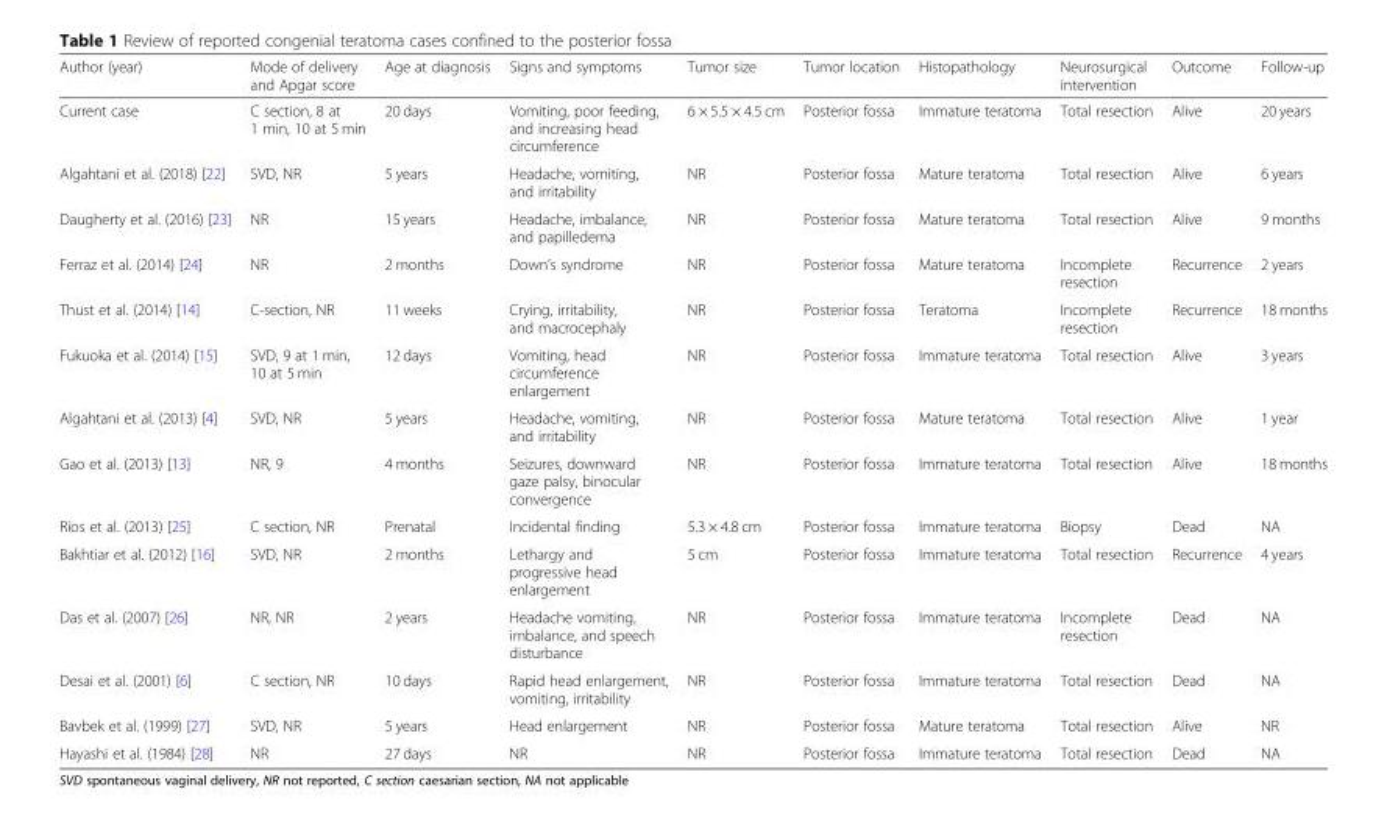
<table><thead><tr><td>Author (year)</td><td>Mode of delivery and Apgar score</td><td>Age at diagnosis</td><td>Signs and symptoms</td><td>Tumor size</td><td>Tumor location</td><td>Histopathology</td><td>Neurosurgical intervention</td><td>Outcome</td><td>Follow-up</td></tr></thead><tbody><tr><td>Current case</td><td>C section, 8 at 1 min, 10 at 5 min</td><td>20 days</td><td>Vomiting, poor feeding, and increasing head circumference</td><td>6 × 5.5 × 4.5 cm</td><td>Posterior fossa</td><td>Immature teratoma</td><td>Total resection</td><td>Alive</td><td>20 years</td></tr><tr><td>Algahtani et al. (2018) [22]</td><td>SVD, NR</td><td>5 years</td><td>Headache, vomiting, and irritability</td><td>NR</td><td>Posterior fossa</td><td>Mature teratoma</td><td>Total resection</td><td>Alive</td><td>6 years</td></tr><tr><td>Daugherty et al. (2016) [23]</td><td>NR</td><td>15 years</td><td>Headache, imbalance, and papilledema</td><td>NR</td><td>Posterior fossa</td><td>Mature teratoma</td><td>Total resection</td><td>Alive</td><td>9 months</td></tr><tr><td>Ferraz et al. (2014) [24]</td><td>NR</td><td>2 months</td><td>Down’s syndrome</td><td>NR</td><td>Posterior fossa</td><td>Mature teratoma</td><td>Incomplete resection</td><td>Recurrence</td><td>2 years</td></tr><tr><td>Thust et al. (2014) [14]</td><td>C-section, NR</td><td>11 weeks</td><td>Crying, irritability, and macrocephaly</td><td>NR</td><td>Posterior fossa</td><td>Teratoma</td><td>Incomplete resection</td><td>Recurrence</td><td>18 months</td></tr><tr><td>Fukuoka et al. (2014) [15]</td><td>SVD, 9 at 1 min, 10 at 5 min</td><td>12 days</td><td>Vomiting, head circumference enlargement</td><td>NR</td><td>Posterior fossa</td><td>Immature teratoma</td><td>Total resection</td><td>Alive</td><td>3 years</td></tr><tr><td>Algahtani et al. (2013) [4]</td><td>SVD, NR</td><td>5 years</td><td>Headache, vomiting, and irritability</td><td>NR</td><td>Posterior fossa</td><td>Mature teratoma</td><td>Total resection</td><td>Alive</td><td>1 year</td></tr><tr><td>Gao et al. (2013) [13]</td><td>NR, 9</td><td>4 months</td><td>Seizures, downward gaze palsy, binocular convergence</td><td>NR</td><td>Posterior fossa</td><td>Immature teratoma</td><td>Total resection</td><td>Alive</td><td>18 months</td></tr><tr><td>Rios et al. (2013) [25]</td><td>C section, NR</td><td>Prenatal</td><td>Incidental finding</td><td>5.3 × 4.8 cm</td><td>Posterior fossa</td><td>Immature teratoma</td><td>Biopsy</td><td>Dead</td><td>NA</td></tr><tr><td>Bakhtiar et al. (2012) [16]</td><td>SVD, NR</td><td>2 months</td><td>Lethargy and progressive head enlargement</td><td>5 cm</td><td>Posterior fossa</td><td>Immature teratoma</td><td>Total resection</td><td>Recurrence</td><td>4 years</td></tr><tr><td>Das et al. (2007) [26]</td><td>NR, NR</td><td>2 years</td><td>Headache vomiting, imbalance, and speech disturbance</td><td>NR</td><td>Posterior fossa</td><td>Immature teratoma</td><td>Incomplete resection</td><td>Dead</td><td>NA</td></tr><tr><td>Desai et al. (2001) [6]</td><td>C section, NR</td><td>10 days</td><td>Rapid head enlargement, vomiting, irritability</td><td>NR</td><td>Posterior fossa</td><td>Immature teratoma</td><td>Total resection</td><td>Dead</td><td>NA</td></tr><tr><td>Bavbek et al. (1999) [27]</td><td>SVD, NR</td><td>5 years</td><td>Head enlargement</td><td>NR</td><td>Posterior fossa</td><td>Mature teratoma</td><td>Total resection</td><td>Alive</td><td>NR</td></tr><tr><td>Hayashi et al. (1984) [28]</td><td>NR</td><td>27 days</td><td>NR</td><td>NR</td><td>Posterior fossa</td><td>Immature teratoma</td><td>Total resection</td><td>Dead</td><td>NA</td></tr></tbody></table>